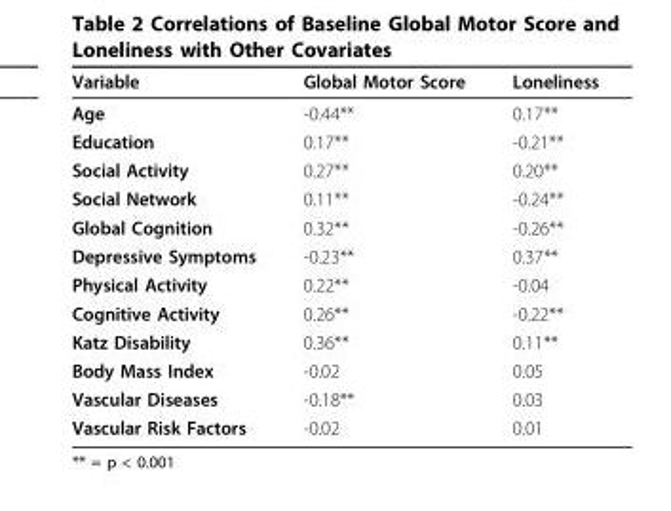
<table><thead><tr><td>Variable</td><td>Global Motor Score</td><td>Loneliness</td></tr></thead><tbody><tr><td>Age</td><td>-0.44**</td><td>0.17**</td></tr><tr><td>Education</td><td>0.17**</td><td>-0.21**</td></tr><tr><td>Social Activity</td><td>0.27**</td><td>0.20**</td></tr><tr><td>Social Network</td><td>0.11**</td><td>-0.24**</td></tr><tr><td>Global Cognition</td><td>0.32**</td><td>-0.26**</td></tr><tr><td>Depressive Symptoms</td><td>-0.23**</td><td>0.37**</td></tr><tr><td>Physical Activity</td><td>0.22**</td><td>-0.04</td></tr><tr><td>Cognitive Activity</td><td>0.26**</td><td>-0.22**</td></tr><tr><td>Katz Disability</td><td>0.36**</td><td>0.11**</td></tr><tr><td>Body Mass Index</td><td>-0.02</td><td>0.05</td></tr><tr><td>Vascular Diseases</td><td>-0.18**</td><td>0.03</td></tr><tr><td>Vascular Risk Factors</td><td>-0.02</td><td>0.01</td></tr></tbody></table>